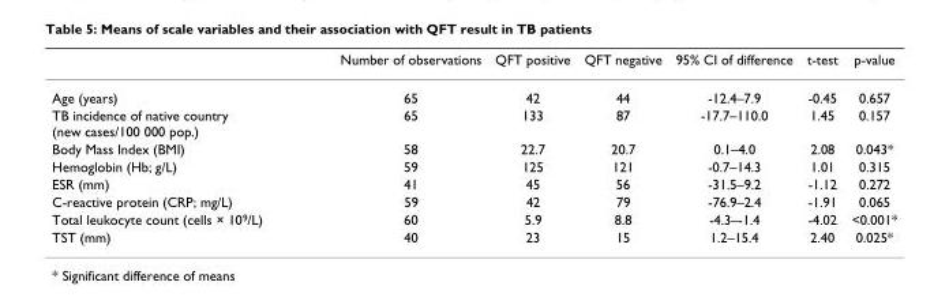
<table><thead><tr><td></td><td>Number of observations</td><td>QFT positive</td><td>QFT negative</td><td>95% CI of difference</td><td>t-test</td><td>p-value</td></tr></thead><tbody><tr><td>Age (years)</td><td>65</td><td>42</td><td>44</td><td>-12.4–7.9</td><td>-0.45</td><td>0.657</td></tr><tr><td>TB incidence of native country (new cases/100 000 pop.)</td><td>65</td><td>133</td><td>87</td><td>-17.7–110.0</td><td>1.45</td><td>0.157</td></tr><tr><td>Body Mass Index (BMI)</td><td>58</td><td>22.7</td><td>20.7</td><td>0.1–4.0</td><td>2.08</td><td>0.043*</td></tr><tr><td>Hemoglobin (Hb; g/L)</td><td>59</td><td>125</td><td>121</td><td>-0.7–14.3</td><td>1.01</td><td>0.315</td></tr><tr><td>ESR (mm)</td><td>41</td><td>45</td><td>56</td><td>-31.5–9.2</td><td>-1.12</td><td>0.272</td></tr><tr><td>C-reactive protein (CRP; mg/L)</td><td>59</td><td>42</td><td>79</td><td>-76.9–2.4</td><td>-1.91</td><td>0.065</td></tr><tr><td>Total leukocyte count (cells × 10<sup>9</sup>/L)</td><td>60</td><td>5.9</td><td>8.8</td><td>-4.3–-1.4</td><td>-4.02</td><td>&lt;0.001*</td></tr><tr><td>TST (mm)</td><td>40</td><td>23</td><td>15</td><td>1.2–15.4</td><td>2.40</td><td>0.025*</td></tr></tbody></table>